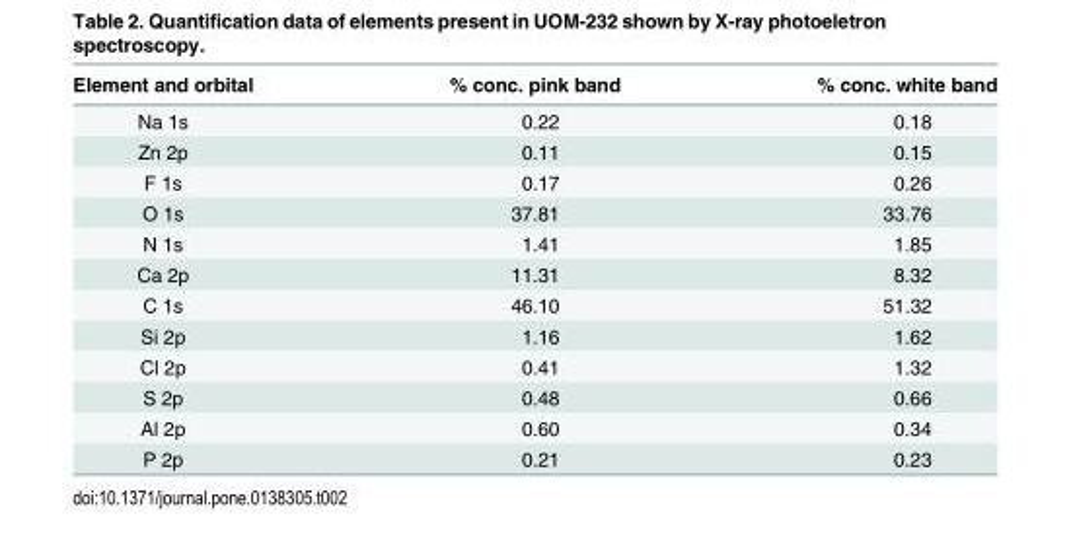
<table><thead><tr><td>Element and orbital</td><td>% conc. pink band</td><td>% conc. white band</td></tr></thead><tbody><tr><td>Na 1s</td><td>0.22</td><td>0.18</td></tr><tr><td>Zn 2p</td><td>0.11</td><td>0.15</td></tr><tr><td>F 1s</td><td>0.17</td><td>0.26</td></tr><tr><td>O 1s</td><td>37.81</td><td>33.76</td></tr><tr><td>N 1s</td><td>1.41</td><td>1.85</td></tr><tr><td>Ca 2p</td><td>11.31</td><td>8.32</td></tr><tr><td>C 1s</td><td>46.10</td><td>51.32</td></tr><tr><td>Si 2p</td><td>1.16</td><td>1.62</td></tr><tr><td>Cl 2p</td><td>0.41</td><td>1.32</td></tr><tr><td>S 2p</td><td>0.48</td><td>0.66</td></tr><tr><td>Al 2p</td><td>0.60</td><td>0.34</td></tr><tr><td>P 2p</td><td>0.21</td><td>0.23</td></tr></tbody></table>